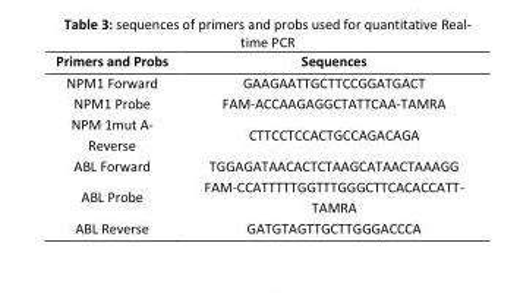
<table><thead><tr><td>Primers and Probs</td><td>Sequences</td></tr></thead><tbody><tr><td>NPM1 Forward</td><td>GAAGAATTGCTTCCGGATGACT</td></tr><tr><td>NPM1 Probe</td><td>FAM-ACCAAGAGGCTATTCAA-TAMRA</td></tr><tr><td>NPM 1mut A- Reverse</td><td>CTTCCTCCACTGCCAGACAGA</td></tr><tr><td>ABL Forward</td><td>TGGAGATAACACTCTAAGCATAACTAAAGG</td></tr><tr><td>ABL Probe</td><td>FAM-CCATTTTTGGTTTGGGCTTCACACCATT- TAMRA</td></tr><tr><td>ABL Reverse</td><td>GATGTAGTTGCTTGGGACCCA</td></tr></tbody></table>